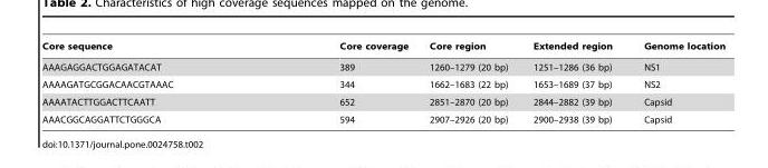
<table><thead><tr><td>Core sequence</td><td>Core coverage</td><td>Core region</td><td>Extended region</td><td>Genome location</td></tr></thead><tbody><tr><td>AAAGAGGACTGGAGATACAT</td><td>389</td><td>1260–1279 (20 bp)</td><td>1251–1286 (36 bp)</td><td>NS1</td></tr><tr><td>AAAAGATGCGGACAACGTAAAC</td><td>344</td><td>1662–1683 (22 bp)</td><td>1653–1689 (37 bp)</td><td>NS2</td></tr><tr><td>AAAATACTTGGACTTCAATT</td><td>652</td><td>2851–2870 (20 bp)</td><td>2844–2882 (39 bp)</td><td>Capsid</td></tr><tr><td>AAACGGCAGGATTCTGGGCA</td><td>594</td><td>2907–2926 (20 bp)</td><td>2900–2938 (39 bp)</td><td>Capsid</td></tr></tbody></table>